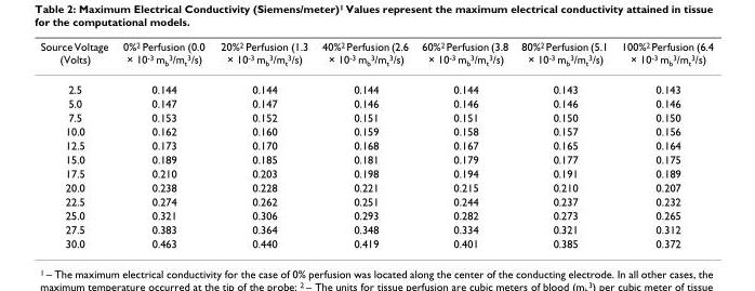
<table><thead><tr><td>Source Voltage (Volts)</td><td>0%<sup>2</sup> Perfusion (0.0 × 10<sup>-3</sup> m<sub>b</sub><sup>3</sup>/m<sub>t</sub><sup>3</sup>/s)</td><td>20%<sup>2</sup> Perfusion (1.3 × 10<sup>-3</sup> m<sub>b</sub><sup>3</sup>/m<sub>t</sub><sup>3</sup>/s)</td><td>40%<sup>2</sup> Perfusion (2.6 × 10<sup>-3</sup> m<sub>b</sub><sup>3</sup>/m<sub>t</sub><sup>3</sup>/s)</td><td>60%<sup>2</sup> Perfusion (3.8 × 10<sup>-3</sup> m<sub>b</sub><sup>3</sup>/m<sub>t</sub><sup>3</sup>/s)</td><td>80%<sup>2</sup> Perfusion (5.1 × 10<sup>-3</sup> m<sub>b</sub><sup>3</sup>/m<sub>t</sub><sup>3</sup>/s)</td><td>100%<sup>2</sup> Perfusion (6.4 × 10<sup>-3</sup> m<sub>b</sub><sup>3</sup>/m<sub>t</sub><sup>3</sup>/s)</td></tr></thead><tbody><tr><td>2.5</td><td>0.144</td><td>0.144</td><td>0.144</td><td>0.144</td><td>0.143</td><td>0.143</td></tr><tr><td>5.0</td><td>0.147</td><td>0.147</td><td>0.146</td><td>0.146</td><td>0.146</td><td>0.146</td></tr><tr><td>7.5</td><td>0.153</td><td>0.152</td><td>0.151</td><td>0.151</td><td>0.150</td><td>0.150</td></tr><tr><td>10.0</td><td>0.162</td><td>0.160</td><td>0.159</td><td>0.158</td><td>0.157</td><td>0.156</td></tr><tr><td>12.5</td><td>0.173</td><td>0.170</td><td>0.168</td><td>0.167</td><td>0.165</td><td>0.164</td></tr><tr><td>15.0</td><td>0.189</td><td>0.185</td><td>0.181</td><td>0.179</td><td>0.177</td><td>0.175</td></tr><tr><td>17.5</td><td>0.210</td><td>0.203</td><td>0.198</td><td>0.194</td><td>0.191</td><td>0.189</td></tr><tr><td>20.0</td><td>0.238</td><td>0.228</td><td>0.221</td><td>0.215</td><td>0.210</td><td>0.207</td></tr><tr><td>22.5</td><td>0.274</td><td>0.262</td><td>0.251</td><td>0.244</td><td>0.237</td><td>0.232</td></tr><tr><td>25.0</td><td>0.321</td><td>0.306</td><td>0.293</td><td>0.282</td><td>0.273</td><td>0.265</td></tr><tr><td>27.5</td><td>0.383</td><td>0.364</td><td>0.348</td><td>0.334</td><td>0.321</td><td>0.312</td></tr><tr><td>30.0</td><td>0.463</td><td>0.440</td><td>0.419</td><td>0.401</td><td>0.385</td><td>0.372</td></tr></tbody></table>